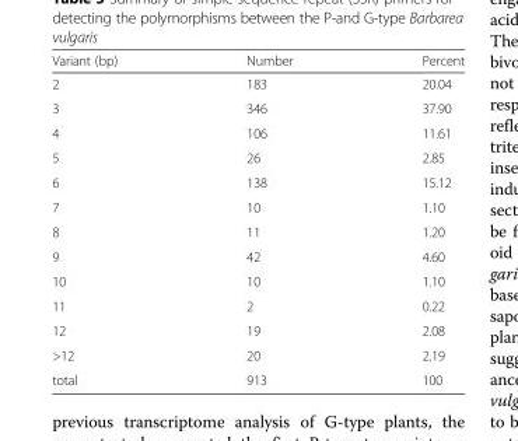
<table><thead><tr><td>Variant (bp)</td><td>Number</td><td>Percent</td></tr></thead><tbody><tr><td>2</td><td>183</td><td>20.04</td></tr><tr><td>3</td><td>346</td><td>37.90</td></tr><tr><td>4</td><td>106</td><td>11.61</td></tr><tr><td>5</td><td>26</td><td>2.85</td></tr><tr><td>6</td><td>138</td><td>15.12</td></tr><tr><td>7</td><td>10</td><td>1.10</td></tr><tr><td>8</td><td>11</td><td>1.20</td></tr><tr><td>9</td><td>42</td><td>4.60</td></tr><tr><td>10</td><td>10</td><td>1.10</td></tr><tr><td>11</td><td>2</td><td>0.22</td></tr><tr><td>12</td><td>19</td><td>2.08</td></tr><tr><td>&gt;12</td><td>20</td><td>2.19</td></tr><tr><td>total</td><td>913</td><td>100</td></tr></tbody></table>